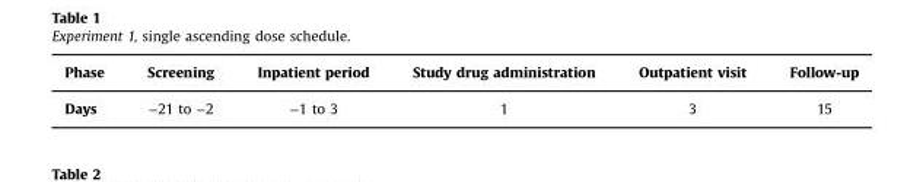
<table><thead><tr><td>Phase</td><td>Screening</td><td>Inpatient period</td><td>Study drug administration</td><td>Outpatient visit</td><td>Follow-up</td></tr></thead><tbody><tr><td>Days</td><td>−21 to −2</td><td>−1 to 3</td><td>1</td><td>3</td><td>15</td></tr></tbody></table>